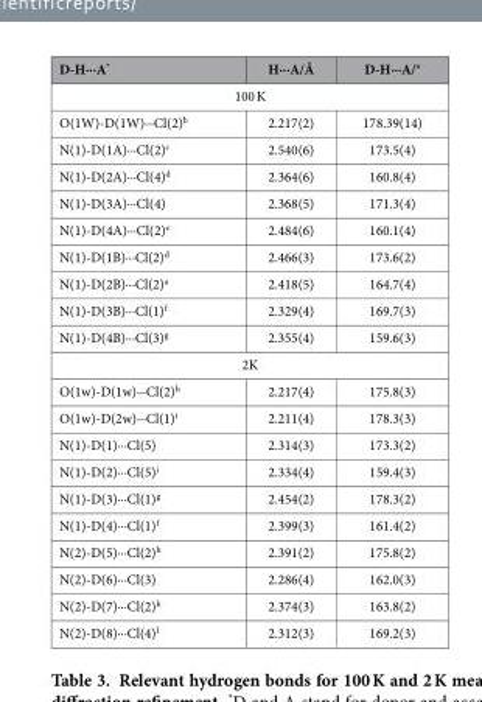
<table><thead><tr><td>D-H···A*</td><td>H···A/Å</td><td>D-H···A/°</td></tr></thead><tbody><tr><td colspan="3">100 K</td></tr><tr><td>O(1W)-D(1W)···Cl(2)<sup>b</sup></td><td>2.217(2)</td><td>178.39(14)</td></tr><tr><td>N(1)-D(1A)···Cl(2)<sup>c</sup></td><td>2.540(6)</td><td>173.5(4)</td></tr><tr><td>N(1)-D(2A)···Cl(4)d</td><td>2.364(6)</td><td>160.8(4)</td></tr><tr><td>N(1)-D(3A)···Cl(4)</td><td>2.368(5)</td><td>171.3(4)</td></tr><tr><td>N(1)-D(4A)···Cl(2)<sup>e</sup></td><td>2.484(6)</td><td>160.1(4)</td></tr><tr><td>N(1)-D(1B)···Cl(2)<sup>d</sup></td><td>2.466(3)</td><td>173.6(2)</td></tr><tr><td>N(1)-D(2B)···Cl(2)<sup>a</sup></td><td>2.418(5)</td><td>164.7(4)</td></tr><tr><td>N(1)-D(3B)···Cl(1)<sup>f</sup></td><td>2.329(4)</td><td>169.7(3)</td></tr><tr><td>N(1)-D(4B)···Cl(3)<sup>g</sup></td><td>2.355(4)</td><td>159.6(3)</td></tr><tr><td colspan="3">2K</td></tr><tr><td>O(1w)-D(1w)···Cl(2)<sup>h</sup></td><td>2.217(4)</td><td>175.8(3)</td></tr><tr><td>O(1w)-D(2w)···Cl(1)<sup>i</sup></td><td>2.211(4)</td><td>178.3(3)</td></tr><tr><td>N(1)-D(1)···Cl(5)</td><td>2.314(3)</td><td>173.3(2)</td></tr><tr><td>N(1)-D(2)···Cl(5)<sup>j</sup></td><td>2.334(4)</td><td>159.4(3)</td></tr><tr><td>N(1)-D(3)···Cl(1)<sup>g</sup></td><td>2.454(2)</td><td>178.3(2)</td></tr><tr><td>N(1)-D(4)···Cl(1)<sup>f</sup></td><td>2.399(3)</td><td>161.4(2)</td></tr><tr><td>N(2)-D(5)···Cl(2)<sup>h</sup></td><td>2.391(2)</td><td>175.8(2)</td></tr><tr><td>N(2)-D(6)···Cl(3)</td><td>2.286(4)</td><td>162.0(3)</td></tr><tr><td>N(2)-D(7)···Cl(2)<sup>k</sup></td><td>2.374(3)</td><td>163.8(2)</td></tr><tr><td>N(2)-D(8)···Cl(4)<sup>l</sup></td><td>2.312(3)</td><td>169.2(3)</td></tr></tbody></table>